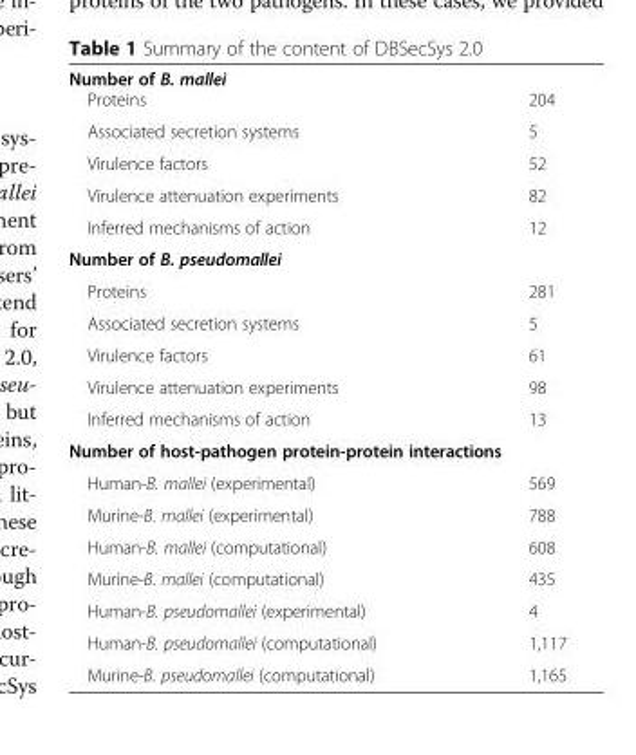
<table><thead><tr><td colspan="2">Number of B. mallei</td></tr><tr><td>Proteins</td><td>204</td></tr></thead><tbody><tr><td>Associated secretion systems</td><td>5</td></tr><tr><td>Virulence factors</td><td>52</td></tr><tr><td>Virulence attenuation experiments</td><td>82</td></tr><tr><td>Inferred mechanisms of action</td><td>12</td></tr><tr><td colspan="2">Number of B. pseudomallei</td></tr><tr><td>Proteins</td><td>281</td></tr><tr><td>Associated secretion systems</td><td>5</td></tr><tr><td>Virulence factors</td><td>61</td></tr><tr><td>Virulence attenuation experiments</td><td>98</td></tr><tr><td>Inferred mechanisms of action</td><td>13</td></tr><tr><td colspan="2">Number of host-pathogen protein-protein interactions</td></tr><tr><td>Human-B. mallei (experimental)</td><td>569</td></tr><tr><td>Murine-B. mallei (experimental)</td><td>788</td></tr><tr><td>Human-B. mallei (computational)</td><td>608</td></tr><tr><td>Murine-B. mallei (computational)</td><td>435</td></tr><tr><td>Human-B. pseudomallei (experimental)</td><td>4</td></tr><tr><td>Human-B. pseudomallei (computational)</td><td>1,117</td></tr><tr><td>Murine-B. pseudomallei (computational)</td><td>1,165</td></tr></tbody></table>